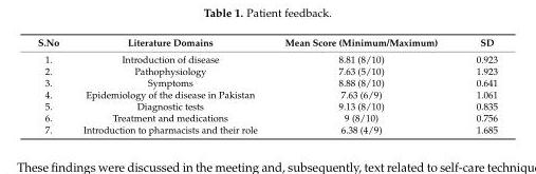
<table><thead><tr><td>S.No</td><td>Literature Domains</td><td>Mean Score (Minimum/Maximum)</td><td>SD</td></tr></thead><tbody><tr><td>1.</td><td>Introduction of disease</td><td>8.81 (8/10)</td><td>0.923</td></tr><tr><td>2.</td><td>Pathophysiology</td><td>7.63 (5/10)</td><td>1.923</td></tr><tr><td>3.</td><td>Symptoms</td><td>8.88 (8/10)</td><td>0.641</td></tr><tr><td>4.</td><td>Epidemiology of the disease in Pakistan</td><td>7.63 (6/9)</td><td>1.061</td></tr><tr><td>5.</td><td>Diagnostic tests</td><td>9.13 (8/10)</td><td>0.835</td></tr><tr><td>6.</td><td>Treatment and medications</td><td>9 (8/10)</td><td>0.756</td></tr><tr><td>7.</td><td>Introduction to pharmacists and their role</td><td>6.38 (4/9)</td><td>1.685</td></tr></tbody></table>